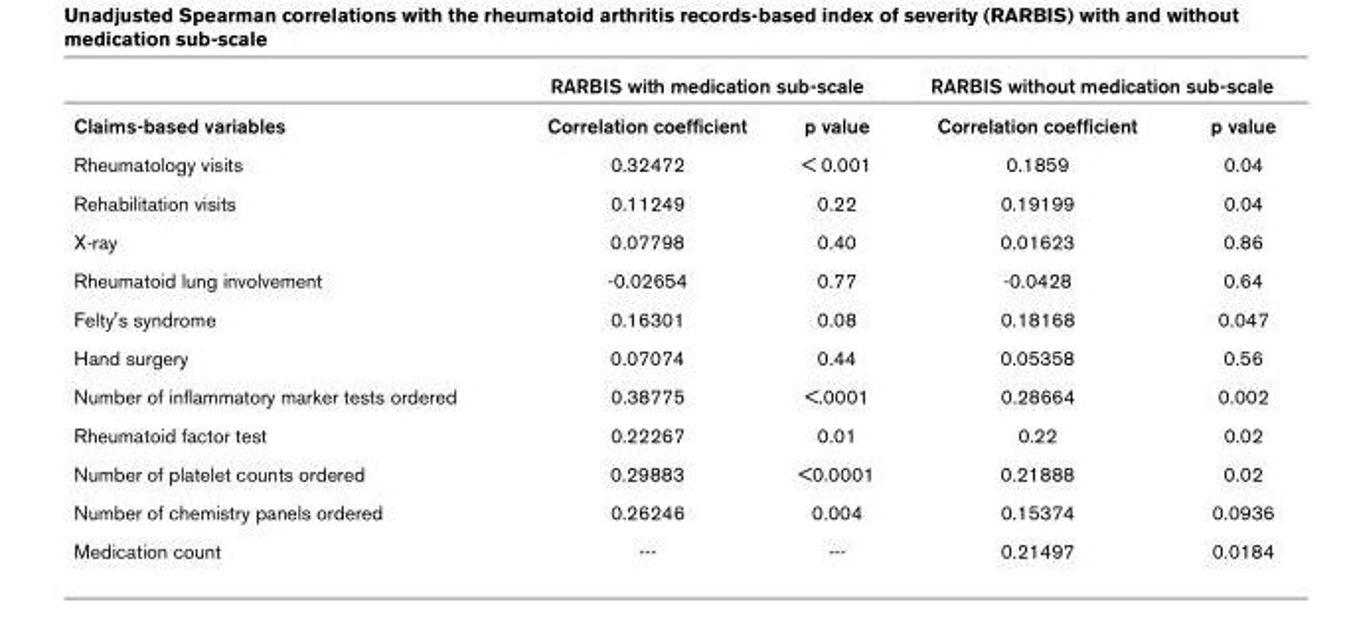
<table><thead><tr><td rowspan="2">Claims-based variables</td><td colspan="2">RARBIS with medication sub-scale</td><td colspan="2">RARBIS without medication sub-scale</td></tr><tr><td>Correlation coefficient</td><td>p value</td><td>Correlation coefficient</td><td>p value</td></tr></thead><tbody><tr><td>Rheumatology visits</td><td>0.32472</td><td>&lt; 0.001</td><td>0.1859</td><td>0.04</td></tr><tr><td>Rehabilitation visits</td><td>0.11249</td><td>0.22</td><td>0.19199</td><td>0.04</td></tr><tr><td>X-ray</td><td>0.07798</td><td>0.40</td><td>0.01623</td><td>0.86</td></tr><tr><td>Rheumatoid lung involvement</td><td>-0.02654</td><td>0.77</td><td>-0.0428</td><td>0.64</td></tr><tr><td>Felty&#x27;s syndrome</td><td>0.16301</td><td>0.08</td><td>0.18168</td><td>0.047</td></tr><tr><td>Hand surgery</td><td>0.07074</td><td>0.44</td><td>0.05358</td><td>0.56</td></tr><tr><td>Number of inflammatory marker tests ordered</td><td>0.38775</td><td>&lt;.0001</td><td>0.28664</td><td>0.002</td></tr><tr><td>Rheumatoid factor test</td><td>0.22267</td><td>0.01</td><td>0.22</td><td>0.02</td></tr><tr><td>Number of platelet counts ordered</td><td>0.29883</td><td>&lt;0.0001</td><td>0.21888</td><td>0.02</td></tr><tr><td>Number of chemistry panels ordered</td><td>0.26246</td><td>0.004</td><td>0.15374</td><td>0.0936</td></tr><tr><td>Medication count</td><td>---</td><td>---</td><td>0.21497</td><td>0.0184</td></tr></tbody></table>